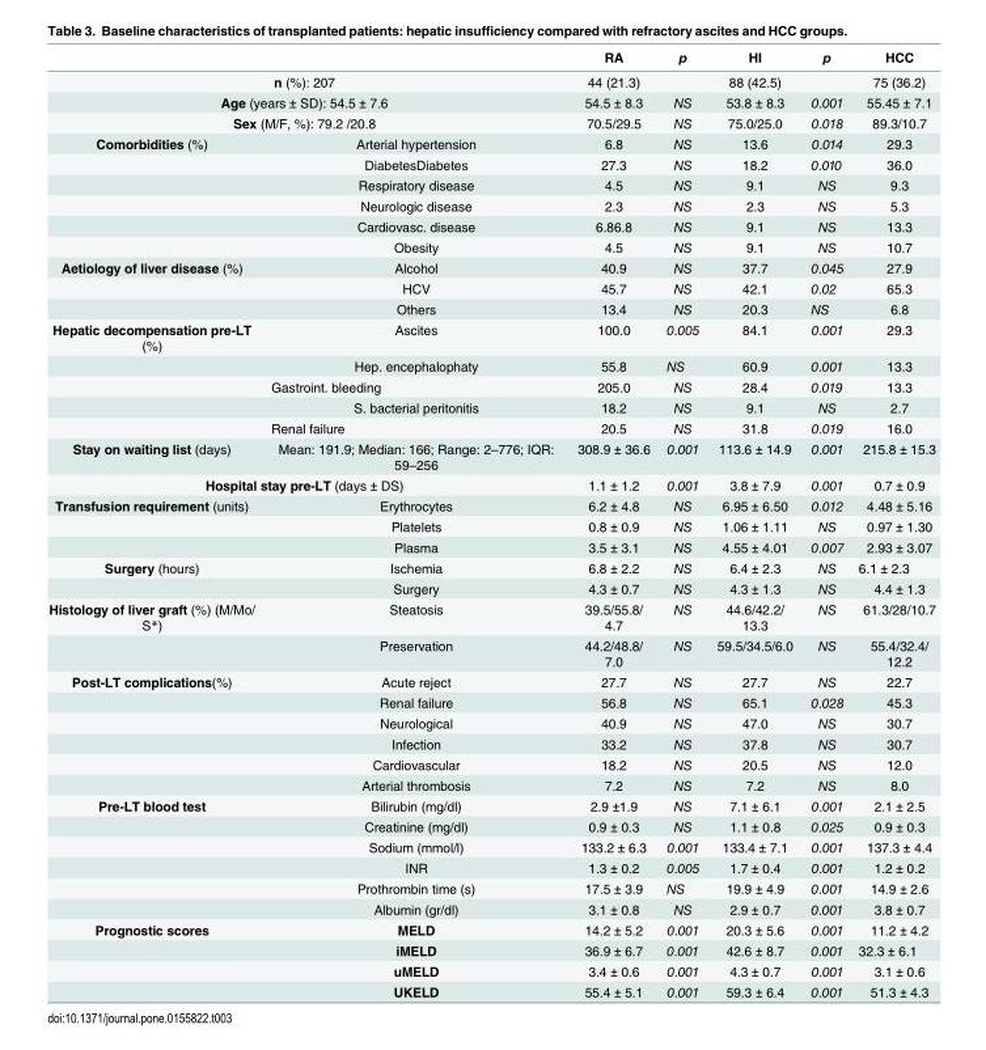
<table><thead><tr><td></td><td></td><td>RA</td><td>p</td><td>HI</td><td>p</td><td>HCC</td></tr></thead><tbody><tr><td colspan="2">n (%): 207</td><td>44 (21.3)</td><td></td><td>88 (42.5)</td><td></td><td>75 (36.2)</td></tr><tr><td colspan="2">Age (years ± SD): 54.5 ± 7.6</td><td>54.5 ± 8.3</td><td>NS</td><td>53.8 ± 8.3</td><td>0.001</td><td>55.45 ± 7.1</td></tr><tr><td colspan="2">Sex (M/F, %): 79.2 /20.8</td><td>70.5/29.5</td><td>NS</td><td>75.0/25.0</td><td>0.018</td><td>89.3/10.7</td></tr><tr><td rowspan="6">Comorbidities (%)</td><td>Arterial hypertension</td><td>6.8</td><td>NS</td><td>13.6</td><td>0.014</td><td>29.3</td></tr><tr><td>DiabetesDiabetes</td><td>27.3</td><td>NS</td><td>18.2</td><td>0.010</td><td>36.0</td></tr><tr><td>Respiratory disease</td><td>4.5</td><td>NS</td><td>9.1</td><td>NS</td><td>9.3</td></tr><tr><td>Neurologic disease</td><td>2.3</td><td>NS</td><td>2.3</td><td>NS</td><td>5.3</td></tr><tr><td>Cardiovasc. disease</td><td>6.86.8</td><td>NS</td><td>9.1</td><td>NS</td><td>13.3</td></tr><tr><td>Obesity</td><td>4.5</td><td>NS</td><td>9.1</td><td>NS</td><td>10.7</td></tr><tr><td rowspan="3">Aetiology of liver disease (%)</td><td>Alcohol</td><td>40.9</td><td>NS</td><td>37.7</td><td>0.045</td><td>27.9</td></tr><tr><td>HCV</td><td>45.7</td><td>NS</td><td>42.1</td><td>0.02</td><td>65.3</td></tr><tr><td>Others</td><td>13.4</td><td>NS</td><td>20.3</td><td>NS</td><td>6.8</td></tr><tr><td rowspan="5">Hepatic decompensation pre-LT (%)</td><td>Ascites</td><td>100.0</td><td>0.005</td><td>84.1</td><td>0.001</td><td>29.3</td></tr><tr><td>Hep. encephalophaty</td><td>55.8</td><td>NS</td><td>60.9</td><td>0.001</td><td>13.3</td></tr><tr><td>Gastroint. bleeding</td><td>205.0</td><td>NS</td><td>28.4</td><td>0.019</td><td>13.3</td></tr><tr><td>S. bacterial peritonitis</td><td>18.2</td><td>NS</td><td>9.1</td><td>NS</td><td>2.7</td></tr><tr><td>Renal failure</td><td>20.5</td><td>NS</td><td>31.8</td><td>0.019</td><td>16.0</td></tr><tr><td>Stay on waiting list (days)</td><td>Mean: 191.9; Median: 166; Range: 2–776; IQR: 59–256</td><td>308.9 ± 36.6</td><td>0.001</td><td>113.6 ± 14.9</td><td>0.001</td><td>215.8 ± 15.3</td></tr><tr><td colspan="2">Hospital stay pre-LT (days ± DS)</td><td>1.1 ± 1.2</td><td>0.001</td><td>3.8 ± 7.9</td><td>0.001</td><td>0.7 ± 0.9</td></tr><tr><td rowspan="3">Transfusion requirement (units)</td><td>Erythrocytes</td><td>6.2 ± 4.8</td><td>NS</td><td>6.95 ± 6.50</td><td>0.012</td><td>4.48 ± 5.16</td></tr><tr><td>Platelets</td><td>0.8 ± 0.9</td><td>NS</td><td>1.06 ± 1.11</td><td>NS</td><td>0.97 ± 1.30</td></tr><tr><td>Plasma</td><td>3.5 ± 3.1</td><td>NS</td><td>4.55 ± 4.01</td><td>0.007</td><td>2.93 ± 3.07</td></tr><tr><td rowspan="2">Surgery (hours)</td><td>Ischemia</td><td>6.8 ± 2.2</td><td>NS</td><td>6.4 ± 2.3</td><td>NS</td><td>6.1 ± 2.3</td></tr><tr><td>Surgery</td><td>4.3 ± 0.7</td><td>NS</td><td>4.3 ± 1.3</td><td>NS</td><td>4.4 ± 1.3</td></tr><tr><td rowspan="2">Histology of liver graft (%) (M/Mo/ S*)</td><td>Steatosis</td><td>39.5/55.8/ 4.7</td><td>NS</td><td>44.6/42.2/ 13.3</td><td>NS</td><td>61.3/28/10.7</td></tr><tr><td>Preservation</td><td>44.2/48.8/ 7.0</td><td>NS</td><td>59.5/34.5/6.0</td><td>NS</td><td>55.4/32.4/ 12.2</td></tr><tr><td rowspan="6">Post-LT complications(%)</td><td>Acute reject</td><td>27.7</td><td>NS</td><td>27.7</td><td>NS</td><td>22.7</td></tr><tr><td>Renal failure</td><td>56.8</td><td>NS</td><td>65.1</td><td>0.028</td><td>45.3</td></tr><tr><td>Neurological</td><td>40.9</td><td>NS</td><td>47.0</td><td>NS</td><td>30.7</td></tr><tr><td>Infection</td><td>33.2</td><td>NS</td><td>37.8</td><td>NS</td><td>30.7</td></tr><tr><td>Cardiovascular</td><td>18.2</td><td>NS</td><td>20.5</td><td>NS</td><td>12.0</td></tr><tr><td>Arterial thrombosis</td><td>7.2</td><td>NS</td><td>7.2</td><td>NS</td><td>8.0</td></tr><tr><td rowspan="6">Pre-LT blood test</td><td>Bilirubin (mg/dl)</td><td>2.9 ±1.9</td><td>NS</td><td>7.1 ± 6.1</td><td>0.001</td><td>2.1 ± 2.5</td></tr><tr><td>Creatinine (mg/dl)</td><td>0.9 ± 0.3</td><td>NS</td><td>1.1 ± 0.8</td><td>0.025</td><td>0.9 ± 0.3</td></tr><tr><td>Sodium (mmol/l)</td><td>133.2 ± 6.3</td><td>0.001</td><td>133.4 ± 7.1</td><td>0.001</td><td>137.3 ± 4.4</td></tr><tr><td>INR</td><td>1.3 ± 0.2</td><td>0.005</td><td>1.7 ± 0.4</td><td>0.001</td><td>1.2 ± 0.2</td></tr><tr><td>Prothrombin time (s)</td><td>17.5 ± 3.9</td><td>NS</td><td>19.9 ± 4.9</td><td>0.001</td><td>14.9 ± 2.6</td></tr><tr><td>Albumin (gr/dl)</td><td>3.1 ± 0.8</td><td>NS</td><td>2.9 ± 0.7</td><td>0.001</td><td>3.8 ± 0.7</td></tr><tr><td rowspan="4">Prognostic scores</td><td>MELD</td><td>14.2 ± 5.2</td><td>0.001</td><td>20.3 ± 5.6</td><td>0.001</td><td>11.2 ± 4.2</td></tr><tr><td>iMELD</td><td>36.9 ± 6.7</td><td>0.001</td><td>42.6 ± 8.7</td><td>0.001</td><td>32.3 ± 6.1</td></tr><tr><td>uMELD</td><td>3.4 ± 0.6</td><td>0.001</td><td>4.3 ± 0.7</td><td>0.001</td><td>3.1 ± 0.6</td></tr><tr><td>UKELD</td><td>55.4 ± 5.1</td><td>0.001</td><td>59.3 ± 6.4</td><td>0.001</td><td>51.3 ± 4.3</td></tr></tbody></table>